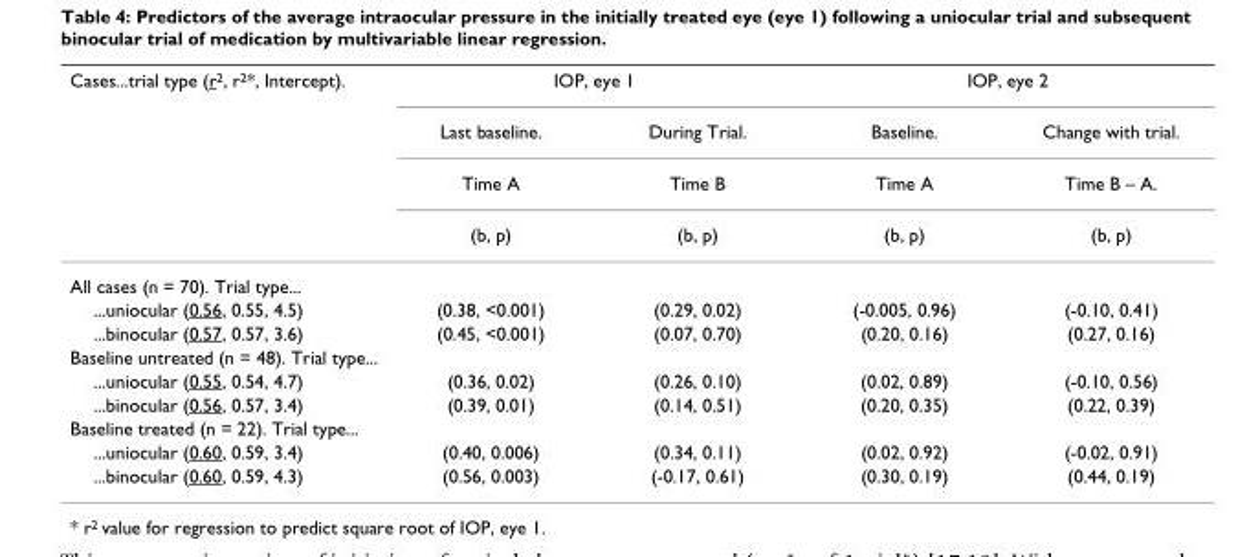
<table><thead><tr><td rowspan="4">Cases...trial type (r<sup>2</sup>, r<sup>2</sup>*, Intercept).</td><td colspan="2">IOP, eye 1</td><td colspan="2">IOP, eye 2</td></tr><tr><td rowspan="3">Last baseline. Time A (b, p)</td><td rowspan="3">During Trial. Time B (b, p)</td><td rowspan="3">Baseline. Time A (b, p)</td><td rowspan="3">Change with trial. Time B – A. (b, p)</td></tr><tr></tr><tr></tr></thead><tbody><tr><td colspan="5">All cases (n = 70). Trial type...</td></tr><tr><td>...uniocular (0.56, 0.55, 4.5)</td><td>(0.38, &lt;0.001)</td><td>(0.29, 0.02)</td><td>(-0.005, 0.96)</td><td>(-0.10, 0.41)</td></tr><tr><td>...binocular (0.57, 0.57, 3.6)</td><td>(0.45, &lt;0.001)</td><td>(0.07, 0.70)</td><td>(0.20, 0.16)</td><td>(0.27, 0.16)</td></tr><tr><td colspan="5">Baseline untreated (n = 48). Trial type...</td></tr><tr><td>...uniocular (0.55, 0.54, 4.7)</td><td>(0.36, 0.02)</td><td>(0.26, 0.10)</td><td>(0.02, 0.89)</td><td>(-0.10, 0.56)</td></tr><tr><td>...binocular (0.56, 0.57, 3.4)</td><td>(0.39, 0.01)</td><td>(0.14, 0.51)</td><td>(0.20, 0.35)</td><td>(0.22, 0.39)</td></tr><tr><td colspan="5">Baseline treated (n = 22). Trial type...</td></tr><tr><td>...uniocular (0.60, 0.59, 3.4)</td><td>(0.40, 0.006)</td><td>(0.34, 0.11)</td><td>(0.02, 0.92)</td><td>(-0.02, 0.91)</td></tr><tr><td>...binocular (0.60, 0.59, 4.3)</td><td>(0.56, 0.003)</td><td>(-0.17, 0.61)</td><td>(0.30, 0.19)</td><td>(0.44, 0.19)</td></tr></tbody></table>